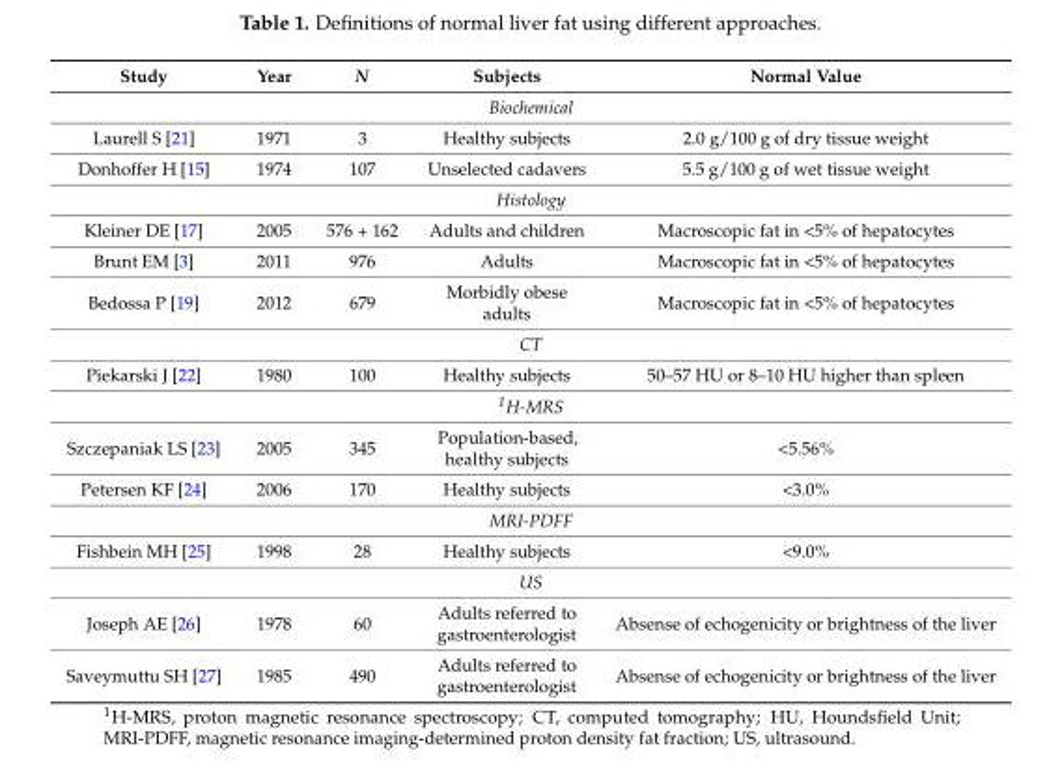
<table><thead><tr><td>Study</td><td>Year</td><td>N</td><td>Subjects</td><td>Normal Value</td></tr></thead><tbody><tr><td colspan="5">Biochemical</td></tr><tr><td>Laurell S [21]</td><td>1971</td><td>3</td><td>Healthy subjects</td><td>2.0 g/100 g of dry tissue weight</td></tr><tr><td>Donhoffer H [15]</td><td>1974</td><td>107</td><td>Unselected cadavers</td><td>5.5 g/100 g of wet tissue weight</td></tr><tr><td colspan="5">Histology</td></tr><tr><td>Kleiner DE [17]</td><td>2005</td><td>576 + 162</td><td>Adults and children</td><td>Macroscopic fat in &lt;5% of hepatocytes</td></tr><tr><td>Brunt EM [3]</td><td>2011</td><td>976</td><td>Adults</td><td>Macroscopic fat in &lt;5% of hepatocytes</td></tr><tr><td>Bedossa P [19]</td><td>2012</td><td>679</td><td>Morbidly obese adults</td><td>Macroscopic fat in &lt;5% of hepatocytes</td></tr><tr><td colspan="5">CT</td></tr><tr><td>Piekarski J [22]</td><td>1980</td><td>100</td><td>Healthy subjects</td><td>50–57 HU or 8–10 HU higher than spleen</td></tr><tr><td colspan="5"><sup>1</sup>H-MRS</td></tr><tr><td>Szczepaniak LS [23]</td><td>2005</td><td>345</td><td>Population-based, healthy subjects</td><td>&lt;5.56%</td></tr><tr><td>Petersen KF [24]</td><td>2006</td><td>170</td><td>Healthy subjects</td><td>&lt;3.0%</td></tr><tr><td colspan="5">MRI-PDFF</td></tr><tr><td>Fishbein MH [25]</td><td>1998</td><td>28</td><td>Healthy subjects</td><td>&lt;9.0%</td></tr><tr><td colspan="5">US</td></tr><tr><td>Joseph AE [26]</td><td>1978</td><td>60</td><td>Adults referred to gastroenterologist</td><td>Absense of echogenicity or brightness of the liver</td></tr><tr><td>Saveymuttu SH [27]</td><td>1985</td><td>490</td><td>Adults referred to gastroenterologist</td><td>Absense of echogenicity or brightness of the liver</td></tr></tbody></table>